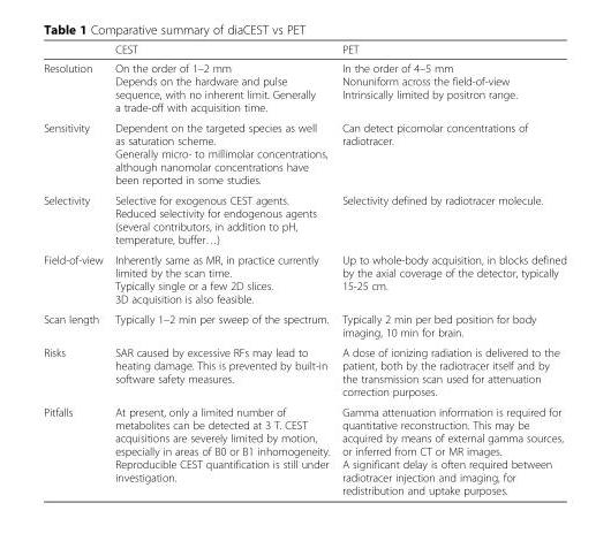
<table><thead><tr><td></td><td>CEST</td><td>PET</td></tr></thead><tbody><tr><td>Resolution</td><td>On the order of 1–2 mm Depends on the hardware and pulse sequence, with no inherent limit. Generally a trade-off with acquisition time.</td><td>In the order of 4–5 mm Nonuniform across the field-of-view Intrinsically limited by positron range.</td></tr><tr><td>Sensitivity</td><td>Dependent on the targeted species as well as saturation scheme. Generally micro- to millimolar concentrations, although nanomolar concentrations have been reported in some studies.</td><td>Can detect picomolar concentrations of radiotracer.</td></tr><tr><td>Selectivity</td><td>Selective for exogenous CEST agents. Reduced selectivity for endogenous agents (several contributors, in addition to pH, temperature, buffer…)</td><td>Selectivity defined by radiotracer molecule.</td></tr><tr><td>Field-of-view</td><td>Inherently same as MR, in practice currently limited by the scan time. Typically single or a few 2D slices. 3D acquisition is also feasible.</td><td>Up to whole-body acquisition, in blocks defined by the axial coverage of the detector, typically 15-25 cm.</td></tr><tr><td>Scan length</td><td>Typically 1–2 min per sweep of the spectrum.</td><td>Typically 2 min per bed position for body imaging, 10 min for brain.</td></tr><tr><td>Risks</td><td>SAR caused by excessive RFs may lead to heating damage. This is prevented by built-in software safety measures.</td><td>A dose of ionizing radiation is delivered to the patient, both by the radiotracer itself and by the transmission scan used for attenuation correction purposes.</td></tr><tr><td>Pitfalls</td><td>At present, only a limited number of metabolites can be detected at 3 T. CEST acquisitions are severely limited by motion, especially in areas of B0 or B1 inhomogeneity. Reproducible CEST quantification is still under investigation.</td><td>Gamma attenuation information is required for quantitative reconstruction. This may be acquired by means of external gamma sources, or inferred from CT or MR images. A significant delay is often required between radiotracer injection and imaging, for redistribution and uptake purposes.</td></tr></tbody></table>